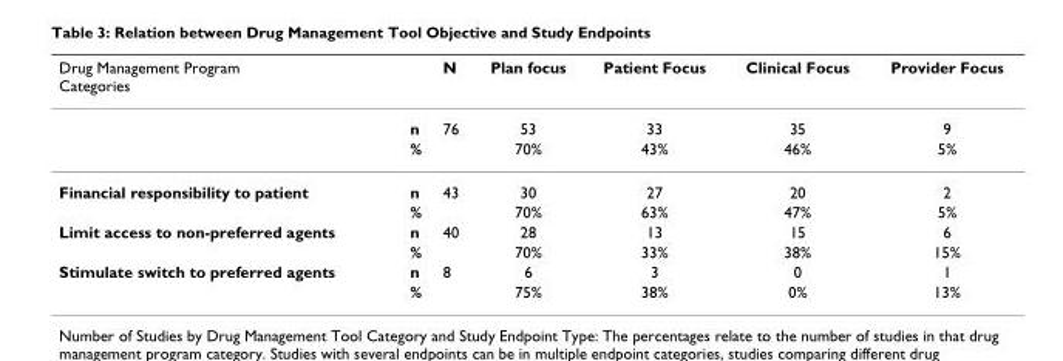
<table><thead><tr><td>Drug Management Program Categories</td><td></td><td>N</td><td>Plan focus</td><td>Patient Focus</td><td>Clinical Focus</td><td>Provider Focus</td></tr></thead><tbody><tr><td></td><td>n</td><td>76</td><td>53</td><td>33</td><td>35</td><td>9</td></tr><tr><td></td><td>%</td><td></td><td>70%</td><td>43%</td><td>46%</td><td>5%</td></tr><tr><td rowspan="2">Financial responsibility to patient</td><td>n</td><td>43</td><td>30</td><td>27</td><td>20</td><td>2</td></tr><tr><td>%</td><td></td><td>70%</td><td>63%</td><td>47%</td><td>5%</td></tr><tr><td rowspan="2">Limit access to non-preferred agents</td><td>n</td><td>40</td><td>28</td><td>13</td><td>15</td><td>6</td></tr><tr><td>%</td><td></td><td>70%</td><td>33%</td><td>38%</td><td>15%</td></tr><tr><td rowspan="2">Stimulate switch to preferred agents</td><td>n</td><td>8</td><td>6</td><td>3</td><td>0</td><td>1</td></tr><tr><td>%</td><td></td><td>75%</td><td>38%</td><td>0%</td><td>13%</td></tr></tbody></table>